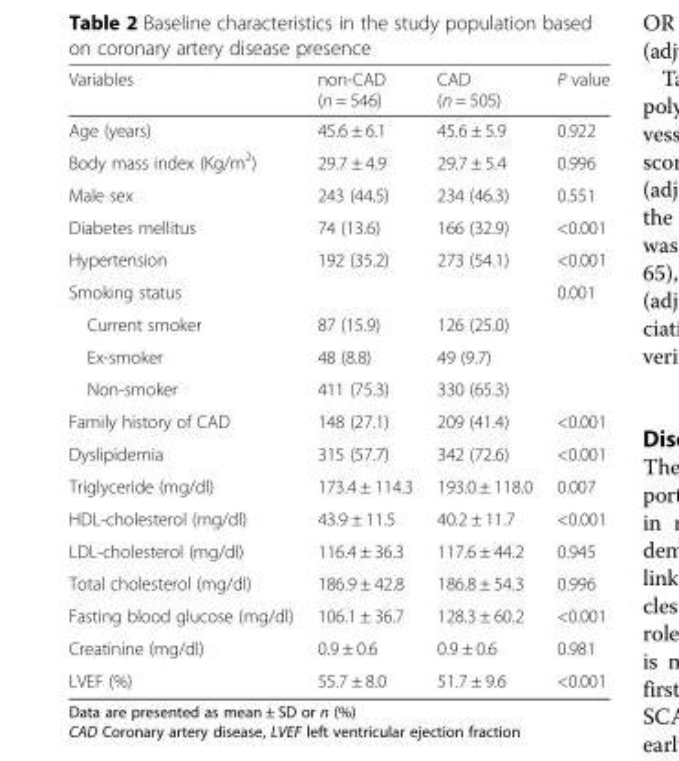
<table><thead><tr><td>Variables</td><td>non-CAD (n = 546)</td><td>CAD (n = 505)</td><td>P value</td></tr></thead><tbody><tr><td>Age (years)</td><td>45.6 ± 6.1</td><td>45.6 ± 5.9</td><td>0.922</td></tr><tr><td>Body mass index (Kg/m<sup>2</sup>)</td><td>29.7 ± 4.9</td><td>29.7 ± 5.4</td><td>0.996</td></tr><tr><td>Male sex</td><td>243 (44.5)</td><td>234 (46.3)</td><td>0.551</td></tr><tr><td>Diabetes mellitus</td><td>74 (13.6)</td><td>166 (32.9)</td><td>&lt;0.001</td></tr><tr><td>Hypertension</td><td>192 (35.2)</td><td>273 (54.1)</td><td>&lt;0.001</td></tr><tr><td>Smoking status</td><td></td><td></td><td>0.001</td></tr><tr><td>Current smoker</td><td>87 (15.9)</td><td>126 (25.0)</td><td></td></tr><tr><td>Ex-smoker</td><td>48 (8.8)</td><td>49 (9.7)</td><td></td></tr><tr><td>Non-smoker</td><td>411 (75.3)</td><td>330 (65.3)</td><td></td></tr><tr><td>Family history of CAD</td><td>148 (27.1)</td><td>209 (41.4)</td><td>&lt;0.001</td></tr><tr><td>Dyslipidemia</td><td>315 (57.7)</td><td>342 (72.6)</td><td>&lt;0.001</td></tr><tr><td>Triglyceride (mg/dl)</td><td>173.4 ± 114.3</td><td>193.0 ± 118.0</td><td>0.007</td></tr><tr><td>HDL-cholesterol (mg/dl)</td><td>43.9 ± 11.5</td><td>40.2 ± 11.7</td><td>&lt;0.001</td></tr><tr><td>LDL-cholesterol (mg/dl)</td><td>116.4 ± 36.3</td><td>117.6 ± 44.2</td><td>0.945</td></tr><tr><td>Total cholesterol (mg/dl)</td><td>186.9 ± 42.8</td><td>186.8 ± 54.3</td><td>0.996</td></tr><tr><td>Fasting blood glucose (mg/dl)</td><td>106.1 ± 36.7</td><td>128.3 ± 60.2</td><td>&lt;0.001</td></tr><tr><td>Creatinine (mg/dl)</td><td>0.9 ± 0.6</td><td>0.9 ± 0.6</td><td>0.981</td></tr><tr><td>LVEF (%)</td><td>55.7 ± 8.0</td><td>51.7 ± 9.6</td><td>&lt;0.001</td></tr></tbody></table>